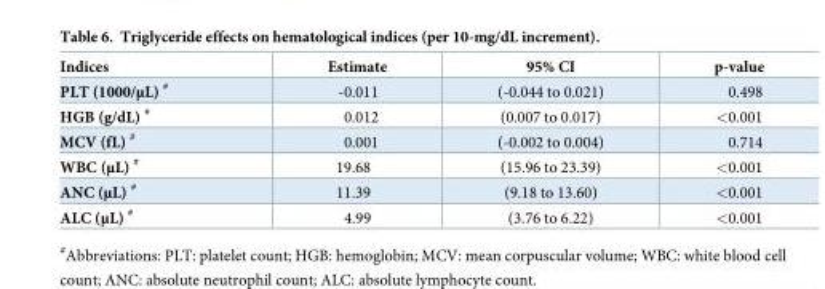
<table><thead><tr><td>Indices</td><td>Estimate</td><td>95% CI</td><td>p-value</td></tr></thead><tbody><tr><td>PLT (1000/μL) <sup>#</sup></td><td>-0.011</td><td>(-0.044 to 0.021)</td><td>0.498</td></tr><tr><td>HGB (g/dL) <sup>#</sup></td><td>0.012</td><td>(0.007 to 0.017)</td><td>&lt;0.001</td></tr><tr><td>MCV (fL) <sup>#</sup></td><td>0.001</td><td>(-0.002 to 0.004)</td><td>0.714</td></tr><tr><td>WBC (μL) <sup>#</sup></td><td>19.68</td><td>(15.96 to 23.39)</td><td>&lt;0.001</td></tr><tr><td>ANC (μL) <sup>#</sup></td><td>11.39</td><td>(9.18 to 13.60)</td><td>&lt;0.001</td></tr><tr><td>ALC (μL) <sup>#</sup></td><td>4.99</td><td>(3.76 to 6.22)</td><td>&lt;0.001</td></tr></tbody></table>